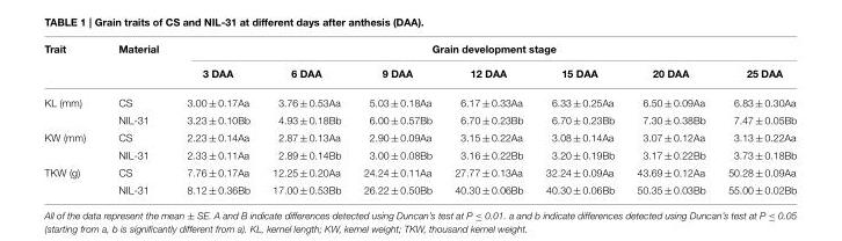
<table><thead><tr><td rowspan="2">Trait</td><td rowspan="2">Material</td><td colspan="7">Grain development stage</td></tr><tr><td>3 DAA</td><td>6 DAA</td><td>9 DAA</td><td>12 DAA</td><td>15 DAA</td><td>20 DAA</td><td>25 DAA</td></tr></thead><tbody><tr><td rowspan="2">KL (mm)</td><td>CS</td><td>3.00 ± 0.17Aa</td><td>3.76 ± 0.53Aa</td><td>5.03 ± 0.18Aa</td><td>6.17 ± 0.33Aa</td><td>6.33 ± 0.25Aa</td><td>6.50 ± 0.09Aa</td><td>6.83 ± 0.30Aa</td></tr><tr><td>NIL-31</td><td>3.23 ± 0.10Bb</td><td>4.93 ± 0.18Bb</td><td>6.00 ± 0.57Bb</td><td>6.70 ± 0.23Bb</td><td>6.70 ± 0.23Bb</td><td>7.30 ± 0.38Bb</td><td>7.47 ± 0.05Bb</td></tr><tr><td rowspan="2">KW (mm)</td><td>CS</td><td>2.23 ± 0.14Aa</td><td>2.87 ± 0.13Aa</td><td>2.90 ± 0.09Aa</td><td>3.15 ± 0.22Aa</td><td>3.08 ± 0.14Aa</td><td>3.07 ± 0.12Aa</td><td>3.13 ± 0.22Aa</td></tr><tr><td>NIL-31</td><td>2.33 ± 0.11Aa</td><td>2.89 ± 0.14Bb</td><td>3.00 ± 0.08Bb</td><td>3.16 ± 0.22Bb</td><td>3.20 ± 0.19Bb</td><td>3.17 ± 0.22Bb</td><td>3.73 ± 0.18Bb</td></tr><tr><td rowspan="2">TKW (g)</td><td>CS</td><td>7.76 ± 0.17Aa</td><td>12.25 ± 0.20Aa</td><td>24.24 ± 0.11Aa</td><td>27.77 ± 0.13Aa</td><td>32.24 ± 0.09Aa</td><td>43.69 ± 0.12Aa</td><td>50.28 ± 0.09Aa</td></tr><tr><td>NIL-31</td><td>8.12 ± 0.36Bb</td><td>17.00 ± 0.53Bb</td><td>26.22 ± 0.50Bb</td><td>40.30 ± 0.06Bb</td><td>40.30 ± 0.06Bb</td><td>50.35 ± 0.03Bb</td><td>55.00 ± 0.02Bb</td></tr></tbody></table>